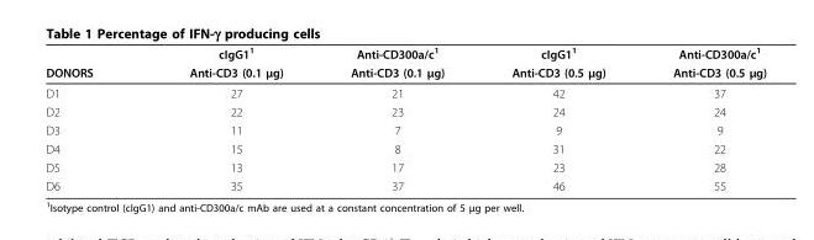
<table><thead><tr><td rowspan="2">DONORS</td><td rowspan="2">cIgG1<sup>1</sup> Anti-CD3 (0.1 μg)</td><td rowspan="2">Anti-CD300a/c<sup>1</sup> Anti-CD3 (0.1 μg)</td><td rowspan="2">cIgG1<sup>1</sup> Anti-CD3 (0.5 μg)</td><td rowspan="2">Anti-CD300a/c<sup>1</sup> Anti-CD3 (0.5 μg)</td></tr><tr></tr></thead><tbody><tr><td>D1</td><td>27</td><td>21</td><td>42</td><td>37</td></tr><tr><td>D2</td><td>22</td><td>23</td><td>24</td><td>24</td></tr><tr><td>D3</td><td>11</td><td>7</td><td>9</td><td>9</td></tr><tr><td>D4</td><td>15</td><td>8</td><td>31</td><td>22</td></tr><tr><td>D5</td><td>13</td><td>17</td><td>23</td><td>28</td></tr><tr><td>D6</td><td>35</td><td>37</td><td>46</td><td>55</td></tr></tbody></table>